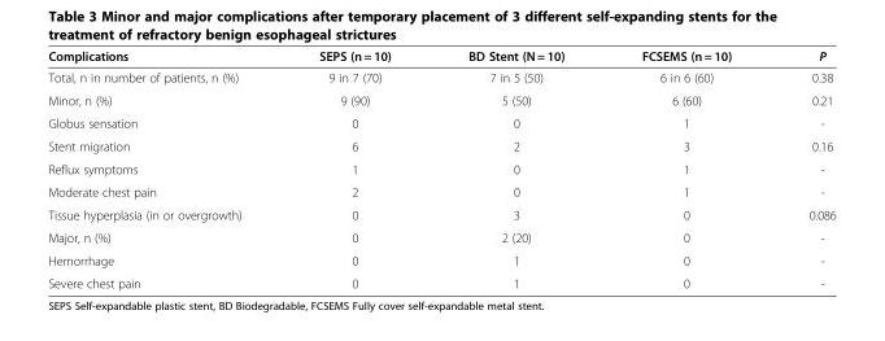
<table><thead><tr><td>Complications</td><td>SEPS (n = 10)</td><td>BD Stent (N = 10)</td><td>FCSEMS (n = 10)</td><td>P</td></tr></thead><tbody><tr><td>Total, n in number of patients, n (%)</td><td>9 in 7 (70)</td><td>7 in 5 (50)</td><td>6 in 6 (60)</td><td>0.38</td></tr><tr><td>Minor, n (%)</td><td>9 (90)</td><td>5 (50)</td><td>6 (60)</td><td>0.21</td></tr><tr><td>Globus sensation</td><td>0</td><td>0</td><td>1</td><td>-</td></tr><tr><td>Stent migration</td><td>6</td><td>2</td><td>3</td><td>0.16</td></tr><tr><td>Reflux symptoms</td><td>1</td><td>0</td><td>1</td><td>-</td></tr><tr><td>Moderate chest pain</td><td>2</td><td>0</td><td>1</td><td>-</td></tr><tr><td>Tissue hyperplasia (in or overgrowth)</td><td>0</td><td>3</td><td>0</td><td>0.086</td></tr><tr><td>Major, n (%)</td><td>0</td><td>2 (20)</td><td>0</td><td>-</td></tr><tr><td>Hemorrhage</td><td>0</td><td>1</td><td>0</td><td>-</td></tr><tr><td>Severe chest pain</td><td>0</td><td>1</td><td>0</td><td>-</td></tr></tbody></table>